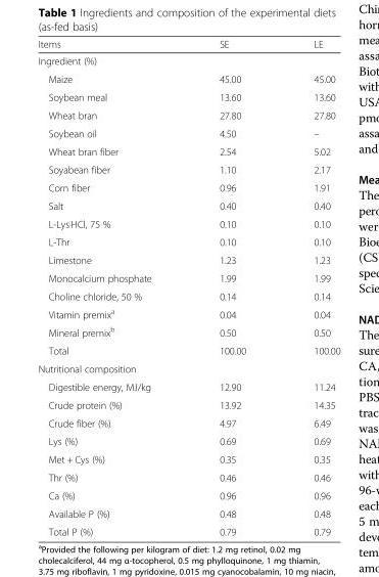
<table><thead><tr><td>Items</td><td>SE</td><td>LE</td></tr></thead><tbody><tr><td colspan="3">Ingredient (%)</td></tr><tr><td>Maize</td><td>45.00</td><td>45.00</td></tr><tr><td>Soybean meal</td><td>13.60</td><td>13.60</td></tr><tr><td>Wheat bran</td><td>27.80</td><td>27.80</td></tr><tr><td>Soybean oil</td><td>4.50</td><td>–</td></tr><tr><td>Wheat bran fiber</td><td>2.54</td><td>5.02</td></tr><tr><td>Soyabean fiber</td><td>1.10</td><td>2.17</td></tr><tr><td>Corn fiber</td><td>0.96</td><td>1.91</td></tr><tr><td>Salt</td><td>0.40</td><td>0.40</td></tr><tr><td>L-Lys·HCl, 75 %</td><td>0.10</td><td>0.10</td></tr><tr><td>L-Thr</td><td>0.10</td><td>0.10</td></tr><tr><td>Limestone</td><td>1.23</td><td>1.23</td></tr><tr><td>Monocalcium phosphate</td><td>1.99</td><td>1.99</td></tr><tr><td>Choline chloride, 50 %</td><td>0.14</td><td>0.14</td></tr><tr><td>Vitamin premix<sup>a</sup></td><td>0.04</td><td>0.04</td></tr><tr><td>Mineral premix<sup>b</sup></td><td>0.50</td><td>0.50</td></tr><tr><td>Total</td><td>100.00</td><td>100.00</td></tr><tr><td colspan="3">Nutritional composition</td></tr><tr><td>Digestible energy, MJ/kg</td><td>12.90</td><td>11.24</td></tr><tr><td>Crude protein (%)</td><td>13.92</td><td>14.35</td></tr><tr><td>Crude fiber (%)</td><td>4.97</td><td>6.49</td></tr><tr><td>Lys (%)</td><td>0.69</td><td>0.69</td></tr><tr><td>Met + Cys (%)</td><td>0.35</td><td>0.35</td></tr><tr><td>Thr (%)</td><td>0.46</td><td>0.46</td></tr><tr><td>Ca (%)</td><td>0.96</td><td>0.96</td></tr><tr><td>Available P (%)</td><td>0.48</td><td>0.48</td></tr><tr><td>Total P (%)</td><td>0.79</td><td>0.79</td></tr></tbody></table>